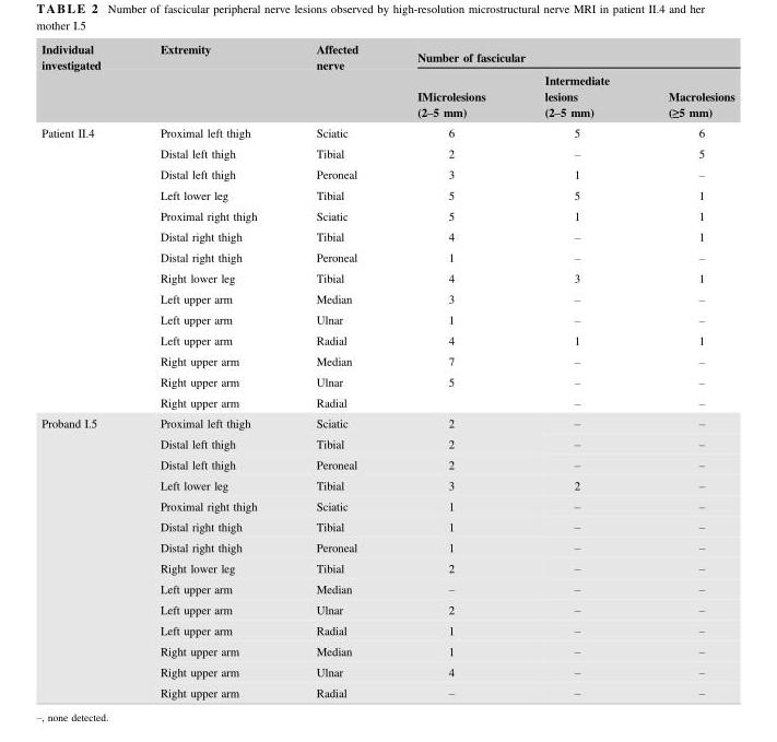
<table><thead><tr><td rowspan="2">Individual investigated</td><td rowspan="2">Extremity</td><td rowspan="2">Affected nerve</td><td colspan="3">Number of fascicular</td></tr><tr><td>IMicrolesions (2–5 mm)</td><td>Intermediate lesions (2–5 mm)</td><td>Macrolesions (≥5 mm)</td></tr></thead><tbody><tr><td rowspan="14">Patient II.4</td><td>Proximal left thigh</td><td>Sciatic</td><td>6</td><td>5</td><td>6</td></tr><tr><td>Distal left thigh</td><td>Tibial</td><td>2</td><td>–</td><td>5</td></tr><tr><td>Distal left thigh</td><td>Peroneal</td><td>3</td><td>1</td><td>–</td></tr><tr><td>Left lower leg</td><td>Tibial</td><td>5</td><td>5</td><td>1</td></tr><tr><td>Proximal right thigh</td><td>Sciatic</td><td>5</td><td>1</td><td>1</td></tr><tr><td>Distal right thigh</td><td>Tibial</td><td>4</td><td>–</td><td>1</td></tr><tr><td>Distal right thigh</td><td>Peroneal</td><td>1</td><td>–</td><td>–</td></tr><tr><td>Right lower leg</td><td>Tibial</td><td>4</td><td>3</td><td>1</td></tr><tr><td>Left upper arm</td><td>Median</td><td>3</td><td>–</td><td>–</td></tr><tr><td>Left upper arm</td><td>Ulnar</td><td>1</td><td>–</td><td>–</td></tr><tr><td>Left upper arm</td><td>Radial</td><td>4</td><td>1</td><td>1</td></tr><tr><td>Right upper arm</td><td>Median</td><td>7</td><td>–</td><td>–</td></tr><tr><td>Right upper arm</td><td>Ulnar</td><td>5</td><td>–</td><td>–</td></tr><tr><td>Right upper arm</td><td>Radial</td><td></td><td>–</td><td>–</td></tr><tr><td rowspan="14">Proband I.5</td><td>Proximal left thigh</td><td>Sciatic</td><td>2</td><td>–</td><td>–</td></tr><tr><td>Distal left thigh</td><td>Tibial</td><td>2</td><td>–</td><td>–</td></tr><tr><td>Distal left thigh</td><td>Peroneal</td><td>2</td><td>–</td><td>–</td></tr><tr><td>Left lower leg</td><td>Tibial</td><td>3</td><td>2</td><td>–</td></tr><tr><td>Proximal right thigh</td><td>Sciatic</td><td>1</td><td>–</td><td>–</td></tr><tr><td>Distal right thigh</td><td>Tibial</td><td>1</td><td>–</td><td>–</td></tr><tr><td>Distal right thigh</td><td>Peroneal</td><td>1</td><td>–</td><td>–</td></tr><tr><td>Right lower leg</td><td>Tibial</td><td>2</td><td>–</td><td>–</td></tr><tr><td>Left upper arm</td><td>Median</td><td>–</td><td>–</td><td>–</td></tr><tr><td>Left upper arm</td><td>Ulnar</td><td>2</td><td>–</td><td>–</td></tr><tr><td>Left upper arm</td><td>Radial</td><td>1</td><td>–</td><td>–</td></tr><tr><td>Right upper arm</td><td>Median</td><td>1</td><td>–</td><td>–</td></tr><tr><td>Right upper arm</td><td>Ulnar</td><td>4</td><td>–</td><td>–</td></tr><tr><td>Right upper arm</td><td>Radial</td><td>–</td><td>–</td><td>–</td></tr></tbody></table>